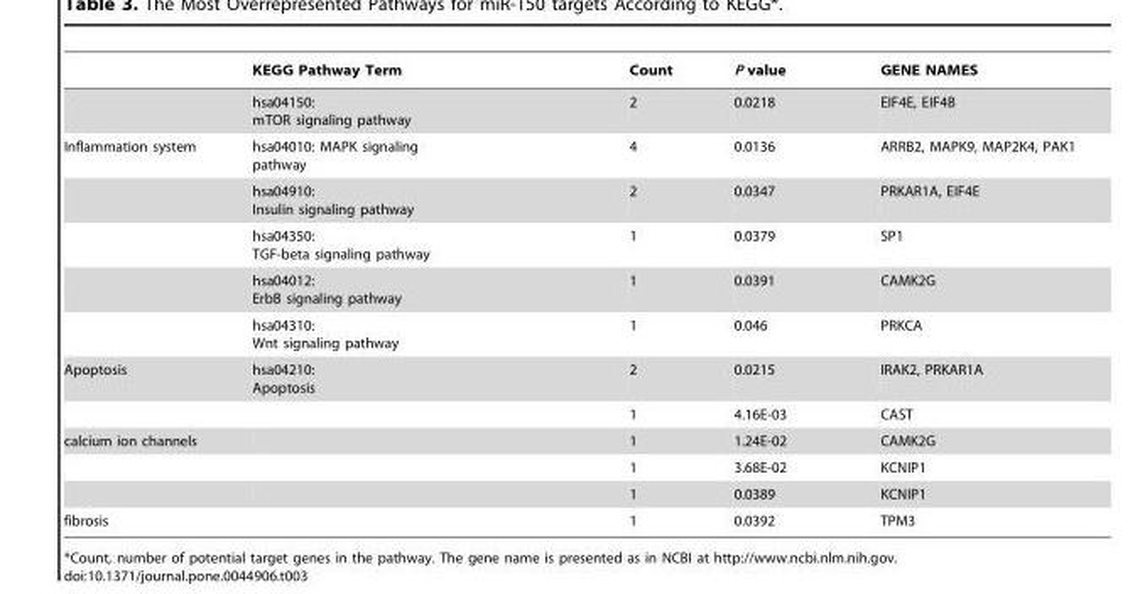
<table><thead><tr><td></td><td>KEGG Pathway Term</td><td>Count</td><td>P value</td><td>GENE NAMES</td></tr></thead><tbody><tr><td></td><td>hsa04150: mTOR signaling pathway</td><td>2</td><td>0.0218</td><td>EIF4E, EIF4B</td></tr><tr><td rowspan="5">Inflammation system</td><td>hsa04010: MAPK signaling pathway</td><td>4</td><td>0.0136</td><td>ARRB2, MAPK9, MAP2K4, PAK1</td></tr><tr><td>hsa04910: Insulin signaling pathway</td><td>2</td><td>0.0347</td><td>PRKAR1A, EIF4E</td></tr><tr><td>hsa04350: TGF-beta signaling pathway</td><td>1</td><td>0.0379</td><td>SP1</td></tr><tr><td>hsa04012: ErbB signaling pathway</td><td>1</td><td>0.0391</td><td>CAMK2G</td></tr><tr><td>hsa04310: Wnt signaling pathway</td><td>1</td><td>0.046</td><td>PRKCA</td></tr><tr><td rowspan="2">Apoptosis</td><td>hsa04210: Apoptosis</td><td>2</td><td>0.0215</td><td>IRAK2, PRKAR1A</td></tr><tr><td></td><td>1</td><td>4.16E-03</td><td>CAST</td></tr><tr><td rowspan="3">calcium ion channels</td><td></td><td>1</td><td>1.24E-02</td><td>CAMK2G</td></tr><tr><td></td><td>1</td><td>3.68E-02</td><td>KCNIP1</td></tr><tr><td></td><td>1</td><td>0.0389</td><td>KCNIP1</td></tr><tr><td>fibrosis</td><td></td><td>1</td><td>0.0392</td><td>TPM3</td></tr></tbody></table>